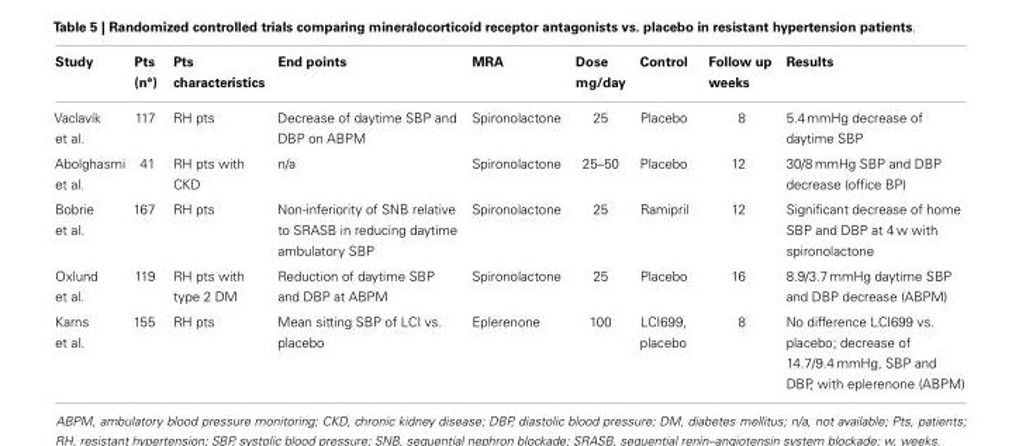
<table><thead><tr><td>Study</td><td>Pts (n°)</td><td>Pts characteristics</td><td>End points</td><td>MRA</td><td>Dose mg/day</td><td>Control</td><td>Follow up weeks</td><td>Results</td></tr></thead><tbody><tr><td>Vaclavík et al.</td><td>117</td><td>RH pts</td><td>Decrease of daytime SBP and DBP on ABPM</td><td>Spironolactone</td><td>25</td><td>Placebo</td><td>8</td><td>5.4 mmHg decrease of daytime SBP</td></tr><tr><td>Abolghasmi et al.</td><td>41</td><td>RH pts with CKD</td><td>n/a</td><td>Spironolactone</td><td>25–50</td><td>Placebo</td><td>12</td><td>30/8 mmHg SBP and DBP decrease (office BP)</td></tr><tr><td>Bobrie et al.</td><td>167</td><td>RH pts</td><td>Non-inferiority of SNB relative to SRASB in reducing daytime ambulatory SBP</td><td>Spironolactone</td><td>25</td><td>Ramipril</td><td>12</td><td>Significant decrease of home SBP and DBP at 4 w with spironolactone</td></tr><tr><td>Oxlund et al.</td><td>119</td><td>RH pts with type 2 DM</td><td>Reduction of daytime SBP and DBP at ABPM</td><td>Spironolactone</td><td>25</td><td>Placebo</td><td>16</td><td>8.9/3.7 mmHg daytime SBP and DBP decrease (ABPM)</td></tr><tr><td>Karns et al.</td><td>155</td><td>RH pts</td><td>Mean sitting SBP of LCI vs. placebo</td><td>Eplerenone</td><td>100</td><td>LCI699, placebo</td><td>8</td><td>No difference LCI699 vs. placebo; decrease of 14.7/9.4 mmHg, SBP and DBP, with eplerenone (ABPM)</td></tr></tbody></table>